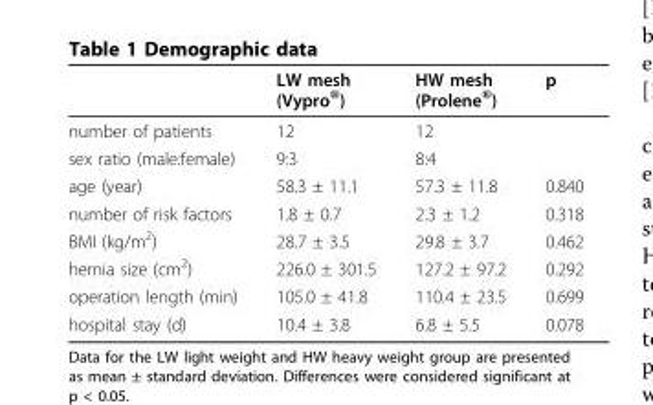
<table><thead><tr><td></td><td>LW mesh (Vypro<sup>®</sup>)</td><td>HW mesh (Prolene<sup>®</sup>)</td><td>p</td></tr></thead><tbody><tr><td>number of patients</td><td>12</td><td>12</td><td></td></tr><tr><td>sex ratio (male:female)</td><td>9:3</td><td>8:4</td><td></td></tr><tr><td>age (year)</td><td>58.3 ± 11.1</td><td>57.3 ± 11.8</td><td>0.840</td></tr><tr><td>number of risk factors</td><td>1.8 ± 0.7</td><td>2.3 ± 1.2</td><td>0.318</td></tr><tr><td>BMI (kg/m<sup>2</sup>)</td><td>28.7 ± 3.5</td><td>29.8 ± 3.7</td><td>0.462</td></tr><tr><td>hernia size (cm<sup>2</sup>)</td><td>226.0 ± 301.5</td><td>127.2 ± 97.2</td><td>0.292</td></tr><tr><td>operation length (min)</td><td>105.0 ± 41.8</td><td>110.4 ± 23.5</td><td>0.699</td></tr><tr><td>hospital stay (d)</td><td>10.4 ± 3.8</td><td>6.8 ± 5.5</td><td>0.078</td></tr></tbody></table>